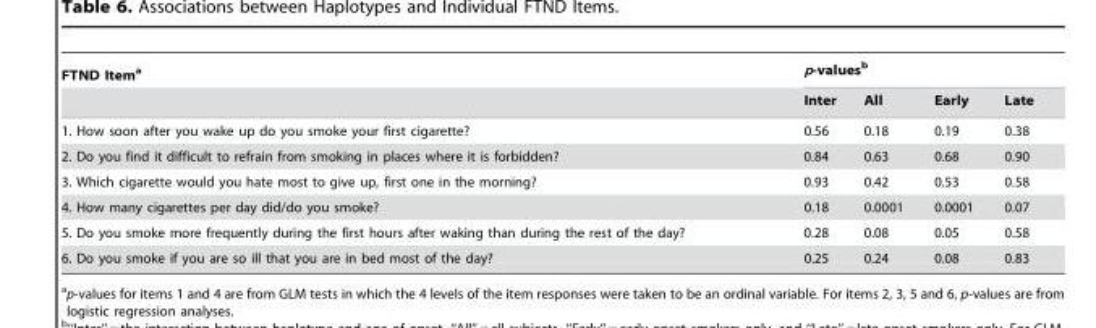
<table><thead><tr><td rowspan="2">FTND Item<sup>a</sup></td><td colspan="4">p-values<sup>b</sup></td></tr><tr><td>Inter</td><td>All</td><td>Early</td><td>Late</td></tr></thead><tbody><tr><td>1. How soon after you wake up do you smoke your first cigarette?</td><td>0.56</td><td>0.18</td><td>0.19</td><td>0.38</td></tr><tr><td>2. Do you find it difficult to refrain from smoking in places where it is forbidden?</td><td>0.84</td><td>0.63</td><td>0.68</td><td>0.90</td></tr><tr><td>3. Which cigarette would you hate most to give up, first one in the morning?</td><td>0.93</td><td>0.42</td><td>0.53</td><td>0.58</td></tr><tr><td>4. How many cigarettes per day did/do you smoke?</td><td>0.18</td><td>0.0001</td><td>0.0001</td><td>0.07</td></tr><tr><td>5. Do you smoke more frequently during the first hours after waking than during the rest of the day?</td><td>0.28</td><td>0.08</td><td>0.05</td><td>0.58</td></tr><tr><td>6. Do you smoke if you are so ill that you are in bed most of the day?</td><td>0.25</td><td>0.24</td><td>0.08</td><td>0.83</td></tr></tbody></table>